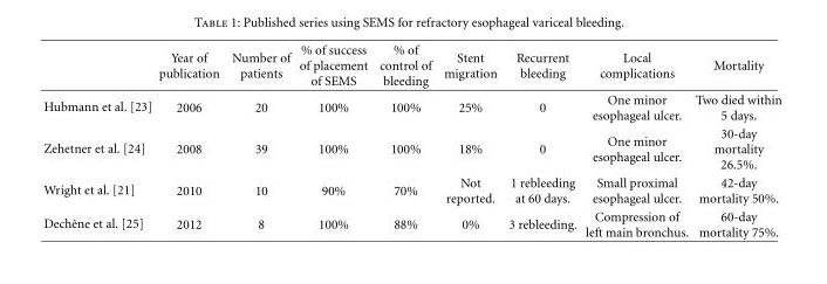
<table><thead><tr><td></td><td>Year of publication</td><td>Number of patients</td><td>% of success of placement of SEMS</td><td>% of control of bleeding</td><td>Stent migration</td><td>Recurrent bleeding</td><td>Local complications</td><td>Mortality</td></tr></thead><tbody><tr><td>Hubmann et al. [23]</td><td>2006</td><td>20</td><td>100%</td><td>100%</td><td>25%</td><td>0</td><td>One minor esophageal ulcer.</td><td>Two died within 5 days.</td></tr><tr><td>Zehetner et al. [24]</td><td>2008</td><td>39</td><td>100%</td><td>100%</td><td>18%</td><td>0</td><td>One minor esophageal ulcer.</td><td>30-day mortality 26.5%.</td></tr><tr><td>Wright et al. [21]</td><td>2010</td><td>10</td><td>90%</td><td>70%</td><td>Not reported.</td><td>1 rebleeding at 60 days.</td><td>Small proximal esophageal ulcer.</td><td>42-day mortality 50%.</td></tr><tr><td>Dechˆene et al. [25]</td><td>2012</td><td>8</td><td>100%</td><td>88%</td><td>0%</td><td>3 rebleeding.</td><td>Compression of left main bronchus.</td><td>60-day mortality 75%.</td></tr></tbody></table>